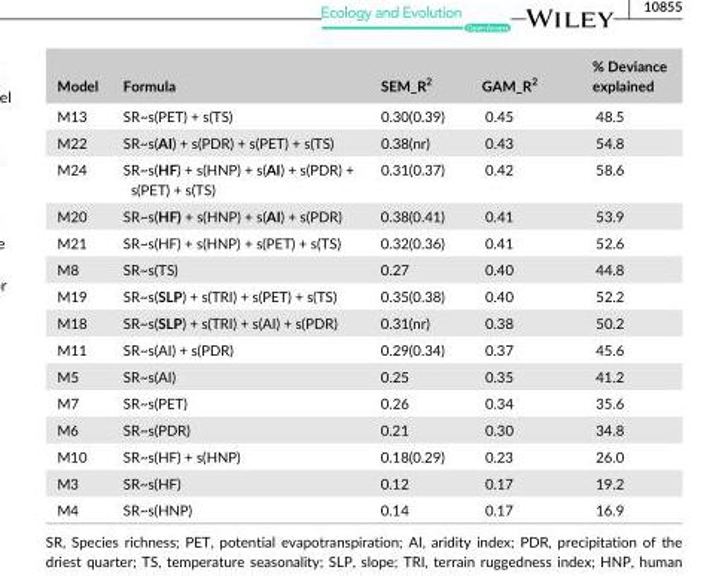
<table><thead><tr><td>Model</td><td>Formula</td><td>SEM_R<sup>2</sup></td><td>GAM_R<sup>2</sup></td><td>% Deviance explained</td></tr></thead><tbody><tr><td>M13</td><td>SR~s(PET) + s(TS)</td><td>0.30(0.39)</td><td>0.45</td><td>48.5</td></tr><tr><td>M22</td><td>SR~s(AI) + s(PDR) + s(PET) + s(TS)</td><td>0.38(nr)</td><td>0.43</td><td>54.8</td></tr><tr><td>M24</td><td>SR~s(HF) + s(HNP) + s(AI) + s(PDR) + s(PET) + s(TS)</td><td>0.31(0.37)</td><td>0.42</td><td>58.6</td></tr><tr><td>M20</td><td>SR~s(HF) + s(HNP) + s(AI) + s(PDR)</td><td>0.38(0.41)</td><td>0.41</td><td>53.9</td></tr><tr><td>M21</td><td>SR~s(HF) + s(HNP) + s(PET) + s(TS)</td><td>0.32(0.36)</td><td>0.41</td><td>52.6</td></tr><tr><td>M8</td><td>SR~s(TS)</td><td>0.27</td><td>0.40</td><td>44.8</td></tr><tr><td>M19</td><td>SR~s(SLP) + s(TRI) + s(PET) + s(TS)</td><td>0.35(0.38)</td><td>0.40</td><td>52.2</td></tr><tr><td>M18</td><td>SR~s(SLP) + s(TRI) + s(AI) + s(PDR)</td><td>0.31(nr)</td><td>0.38</td><td>50.2</td></tr><tr><td>M11</td><td>SR~s(AI) + s(PDR)</td><td>0.29(0.34)</td><td>0.37</td><td>45.6</td></tr><tr><td>M5</td><td>SR~s(AI)</td><td>0.25</td><td>0.35</td><td>41.2</td></tr><tr><td>M7</td><td>SR~s(PET)</td><td>0.26</td><td>0.34</td><td>35.6</td></tr><tr><td>M6</td><td>SR~s(PDR)</td><td>0.21</td><td>0.30</td><td>34.8</td></tr><tr><td>M10</td><td>SR~s(HF) + s(HNP)</td><td>0.18(0.29)</td><td>0.23</td><td>26.0</td></tr><tr><td>M3</td><td>SR~s(HF)</td><td>0.12</td><td>0.17</td><td>19.2</td></tr><tr><td>M4</td><td>SR~s(HNP)</td><td>0.14</td><td>0.17</td><td>16.9</td></tr></tbody></table>